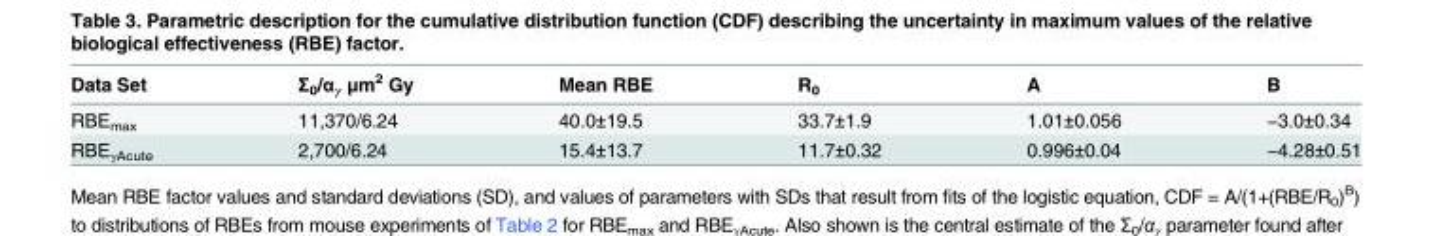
<table><thead><tr><td>Data Set</td><td>Σ0/αγ μm2 Gy</td><td>Mean RBE</td><td>R<sub>0</sub></td><td>A</td><td>B</td></tr></thead><tbody><tr><td>RBE<sub>max</sub></td><td>11,370/6.24</td><td>40.0±19.5</td><td>33.7±1.9</td><td>1.01±0.056</td><td>−3.0±0.34</td></tr><tr><td>RBE<sub>γAcute</sub></td><td>2,700/6.24</td><td>15.4±13.7</td><td>11.7±0.32</td><td>0.996±0.04</td><td>−4.28±0.51</td></tr></tbody></table>